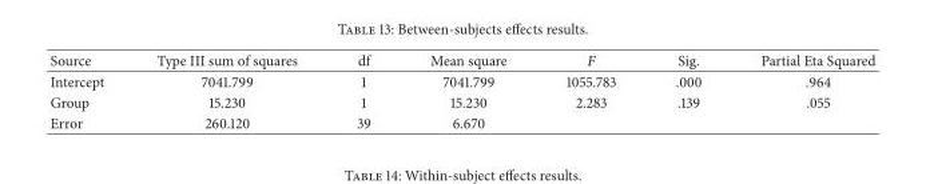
<table><thead><tr><td>Source</td><td>Type III sum of squares</td><td>df</td><td>Mean square</td><td>F</td><td>Sig.</td><td>Partial Eta Squared</td></tr></thead><tbody><tr><td>Intercept</td><td>7041.799</td><td>1</td><td>7041.799</td><td>1055.783</td><td>.000</td><td>.964</td></tr><tr><td>Group</td><td>15.230</td><td>1</td><td>15.230</td><td>2.283</td><td>.139</td><td>.055</td></tr><tr><td>Error</td><td>260.120</td><td>39</td><td>6.670</td><td></td><td></td><td></td></tr></tbody></table>